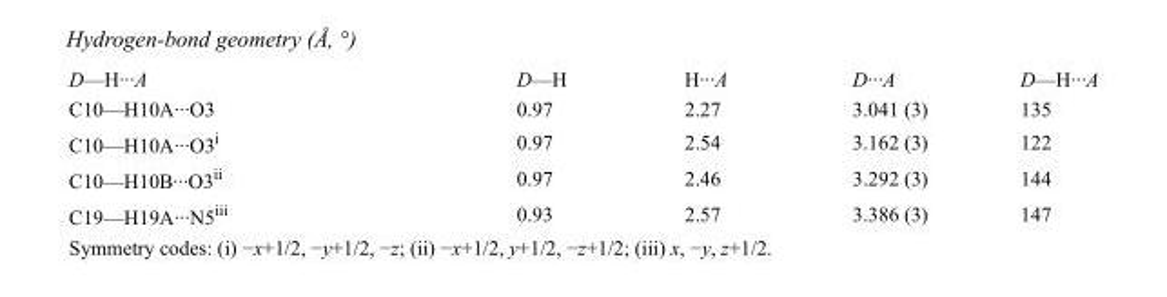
<table><tbody><tr><td>D—H···A</td><td>D—H</td><td>H···A</td><td>D···A</td><td>D—H···A</td></tr><tr><td>C10—H10A···O3</td><td>0.97</td><td>2.27</td><td>3.041 (3)</td><td>135</td></tr><tr><td>C10—H10A···O3<sup>i</sup></td><td>0.97</td><td>2.54</td><td>3.162 (3)</td><td>122</td></tr><tr><td>C10—H10B···O3<sup>ii</sup></td><td>0.97</td><td>2.46</td><td>3.292 (3)</td><td>144</td></tr><tr><td>C19—H19A···N5<sup>iii</sup></td><td>0.93</td><td>2.57</td><td>3.386 (3)</td><td>147</td></tr></tbody></table>